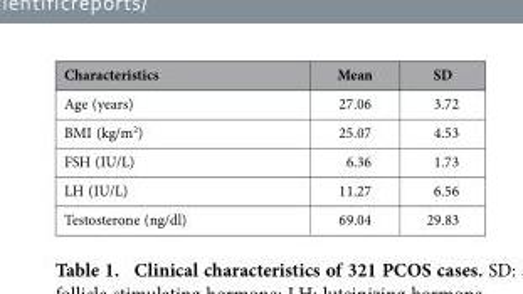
<table><thead><tr><td>Characteristics</td><td>Mean</td><td>SD</td></tr></thead><tbody><tr><td>Age (years)</td><td>27.06</td><td>3.72</td></tr><tr><td>BMI (kg/m<sup>2</sup>)</td><td>25.07</td><td>4.53</td></tr><tr><td>FSH (IU/L)</td><td>6.36</td><td>1.73</td></tr><tr><td>LH (IU/L)</td><td>11.27</td><td>6.56</td></tr><tr><td>Testosterone (ng/dl)</td><td>69.04</td><td>29.83</td></tr></tbody></table>